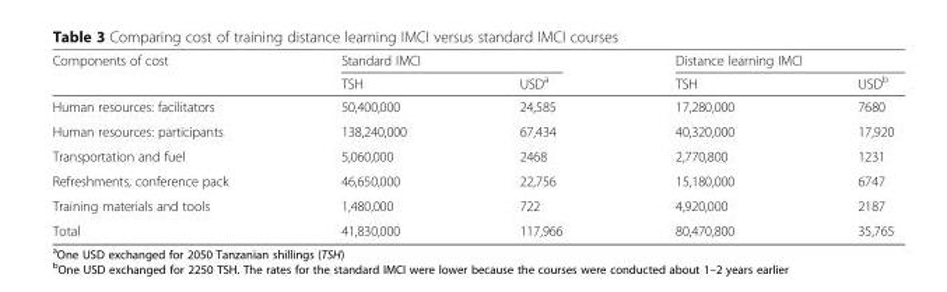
<table><thead><tr><td rowspan="2">Components of cost</td><td colspan="2">Standard IMCI</td><td colspan="2">Distance learning IMCI</td></tr><tr><td>TSH</td><td>USD<sup>a</sup></td><td>TSH</td><td>USD<sup>b</sup></td></tr></thead><tbody><tr><td>Human resources: facilitators</td><td>50,400,000</td><td>24,585</td><td>17,280,000</td><td>7680</td></tr><tr><td>Human resources: participants</td><td>138,240,000</td><td>67,434</td><td>40,320,000</td><td>17,920</td></tr><tr><td>Transportation and fuel</td><td>5,060,000</td><td>2468</td><td>2,770,800</td><td>1231</td></tr><tr><td>Refreshments, conference pack</td><td>46,650,000</td><td>22,756</td><td>15,180,000</td><td>6747</td></tr><tr><td>Training materials and tools</td><td>1,480,000</td><td>722</td><td>4,920,000</td><td>2187</td></tr><tr><td>Total</td><td>41,830,000</td><td>117,966</td><td>80,470,800</td><td>35,765</td></tr></tbody></table>